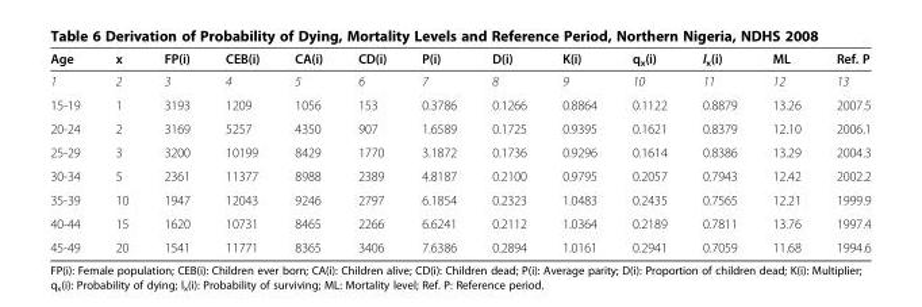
<table><thead><tr><td>Age</td><td>x</td><td>FP(i)</td><td>CEB(i)</td><td>CA(i)</td><td>CD(i)</td><td>P(i)</td><td>D(i)</td><td>K(i)</td><td>q<sub>x</sub>(i)</td><td>l<sub>x</sub>(i)</td><td>ML</td><td>Ref. P</td></tr></thead><tbody><tr><td>1</td><td>2</td><td>3</td><td>4</td><td>5</td><td>6</td><td>7</td><td>8</td><td>9</td><td>10</td><td>11</td><td>12</td><td>13</td></tr><tr><td>15-19</td><td>1</td><td>3193</td><td>1209</td><td>1056</td><td>153</td><td>0.3786</td><td>0.1266</td><td>0.8864</td><td>0.1122</td><td>0.8879</td><td>13.26</td><td>2007.5</td></tr><tr><td>20-24</td><td>2</td><td>3169</td><td>5257</td><td>4350</td><td>907</td><td>1.6589</td><td>0.1725</td><td>0.9395</td><td>0.1621</td><td>0.8379</td><td>12.10</td><td>2006.1</td></tr><tr><td>25-29</td><td>3</td><td>3200</td><td>10199</td><td>8429</td><td>1770</td><td>3.1872</td><td>0.1736</td><td>0.9296</td><td>0.1614</td><td>0.8386</td><td>13.29</td><td>2004.3</td></tr><tr><td>30-34</td><td>5</td><td>2361</td><td>11377</td><td>8988</td><td>2389</td><td>4.8187</td><td>0.2100</td><td>0.9795</td><td>0.2057</td><td>0.7943</td><td>12.42</td><td>2002.2</td></tr><tr><td>35-39</td><td>10</td><td>1947</td><td>12043</td><td>9246</td><td>2797</td><td>6.1854</td><td>0.2323</td><td>1.0483</td><td>0.2435</td><td>0.7565</td><td>12.21</td><td>1999.9</td></tr><tr><td>40-44</td><td>15</td><td>1620</td><td>10731</td><td>8465</td><td>2266</td><td>6.6241</td><td>0.2112</td><td>1.0364</td><td>0.2189</td><td>0.7811</td><td>13.76</td><td>1997.4</td></tr><tr><td>45-49</td><td>20</td><td>1541</td><td>11771</td><td>8365</td><td>3406</td><td>7.6386</td><td>0.2894</td><td>1.0161</td><td>0.2941</td><td>0.7059</td><td>11.68</td><td>1994.6</td></tr></tbody></table>